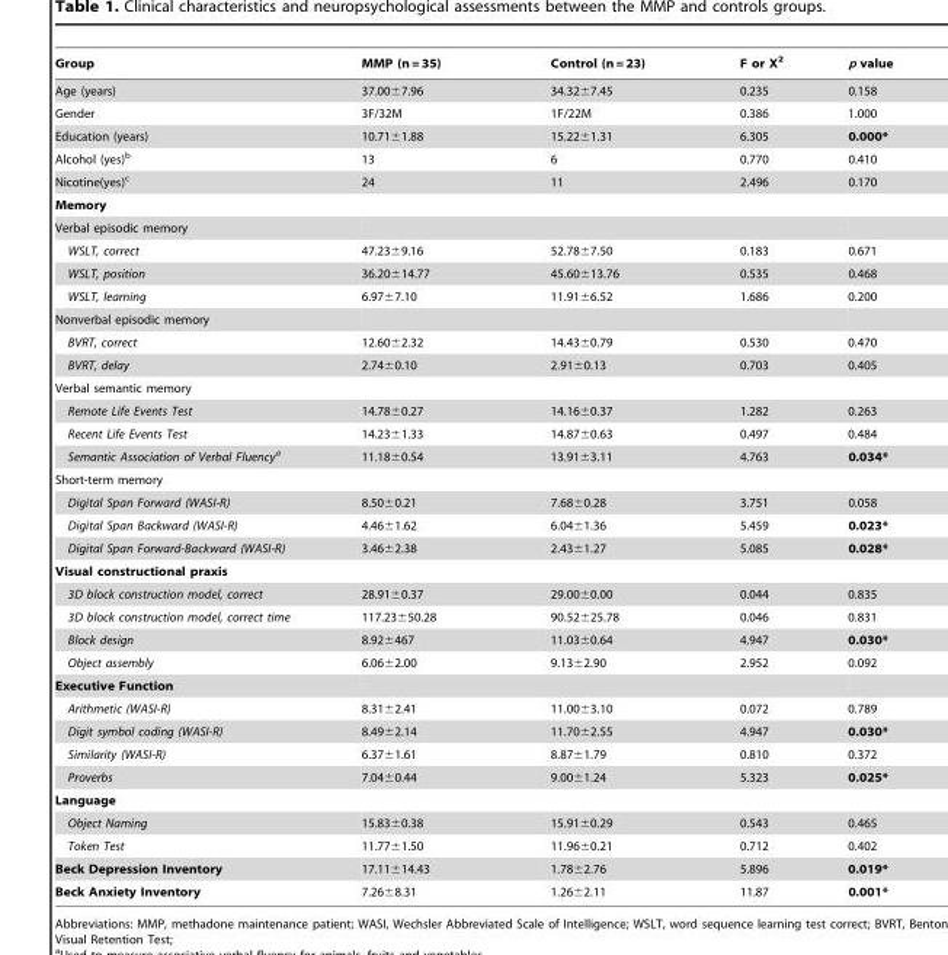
<table><thead><tr><td>Group</td><td>MMP (n = 35)</td><td>Control (n = 23)</td><td>F or X<sup>2</sup></td><td>p value</td></tr></thead><tbody><tr><td>Age (years)</td><td>37.00±7.96</td><td>34.32±7.45</td><td>0.235</td><td>0.158</td></tr><tr><td>Gender</td><td>3F/32M</td><td>1F/22M</td><td>0.386</td><td>1.000</td></tr><tr><td>Education (years)</td><td>10.71±1.88</td><td>15.22±1.31</td><td>6.305</td><td>0.000*</td></tr><tr><td>Alcohol (yes)<sup>b</sup></td><td>13</td><td>6</td><td>0.770</td><td>0.410</td></tr><tr><td>Nicotine(yes)<sup>c</sup></td><td>24</td><td>11</td><td>2.496</td><td>0.170</td></tr><tr><td colspan="5">Memory</td></tr><tr><td colspan="5">Verbal episodic memory</td></tr><tr><td>WSLT, correct</td><td>47.23±9.16</td><td>52.78±7.50</td><td>0.183</td><td>0.671</td></tr><tr><td>WSLT, position</td><td>36.20±14.77</td><td>45.60±13.76</td><td>0.535</td><td>0.468</td></tr><tr><td>WSLT, learning</td><td>6.97±7.10</td><td>11.91±6.52</td><td>1.686</td><td>0.200</td></tr><tr><td colspan="5">Nonverbal episodic memory</td></tr><tr><td>BVRT, correct</td><td>12.60±2.32</td><td>14.43±0.79</td><td>0.530</td><td>0.470</td></tr><tr><td>BVRT, delay</td><td>2.74±0.10</td><td>2.91±0.13</td><td>0.703</td><td>0.405</td></tr><tr><td colspan="5">Verbal semantic memory</td></tr><tr><td>Remote Life Events Test</td><td>14.78±0.27</td><td>14.16±0.37</td><td>1.282</td><td>0.263</td></tr><tr><td>Recent Life Events Test</td><td>14.23±1.33</td><td>14.87±0.63</td><td>0.497</td><td>0.484</td></tr><tr><td>Semantic Association of Verbal Fluencya</td><td>11.18±0.54</td><td>13.91±3.11</td><td>4.763</td><td>0.034*</td></tr><tr><td colspan="5">Short-term memory</td></tr><tr><td>Digital Span Forward (WASI-R)</td><td>8.50±0.21</td><td>7.68±0.28</td><td>3.751</td><td>0.058</td></tr><tr><td>Digital Span Backward (WASI-R)</td><td>4.46±1.62</td><td>6.04±1.36</td><td>5.459</td><td>0.023*</td></tr><tr><td>Digital Span Forward-Backward (WASI-R)</td><td>3.46±2.38</td><td>2.43±1.27</td><td>5.085</td><td>0.028*</td></tr><tr><td colspan="5">Visual constructional praxis</td></tr><tr><td>3D block construction model, correct</td><td>28.91±0.37</td><td>29.00±0.00</td><td>0.044</td><td>0.835</td></tr><tr><td>3D block construction model, correct time</td><td>117.23±50.28</td><td>90.52±25.78</td><td>0.046</td><td>0.831</td></tr><tr><td>Block design</td><td>8.92±467</td><td>11.03±0.64</td><td>4.947</td><td>0.030*</td></tr><tr><td>Object assembly</td><td>6.06±2.00</td><td>9.13±2.90</td><td>2.952</td><td>0.092</td></tr><tr><td colspan="5">Executive Function</td></tr><tr><td>Arithmetic (WASI-R)</td><td>8.31±2.41</td><td>11.00±3.10</td><td>0.072</td><td>0.789</td></tr><tr><td>Digit symbol coding (WASI-R)</td><td>8.49±2.14</td><td>11.70±2.55</td><td>4.947</td><td>0.030*</td></tr><tr><td>Similarity (WASI-R)</td><td>6.37±1.61</td><td>8.87±1.79</td><td>0.810</td><td>0.372</td></tr><tr><td>Proverbs</td><td>7.04±0.44</td><td>9.00±1.24</td><td>5.323</td><td>0.025*</td></tr><tr><td colspan="5">Language</td></tr><tr><td>Object Naming</td><td>15.83±0.38</td><td>15.91±0.29</td><td>0.543</td><td>0.465</td></tr><tr><td>Token Test</td><td>11.77±1.50</td><td>11.96±0.21</td><td>0.712</td><td>0.402</td></tr><tr><td>Beck Depression Inventory</td><td>17.11±14.43</td><td>1.78±2.76</td><td>5.896</td><td>0.019*</td></tr><tr><td>Beck Anxiety Inventory</td><td>7.26±8.31</td><td>1.26±2.11</td><td>11.87</td><td>0.001*</td></tr></tbody></table>